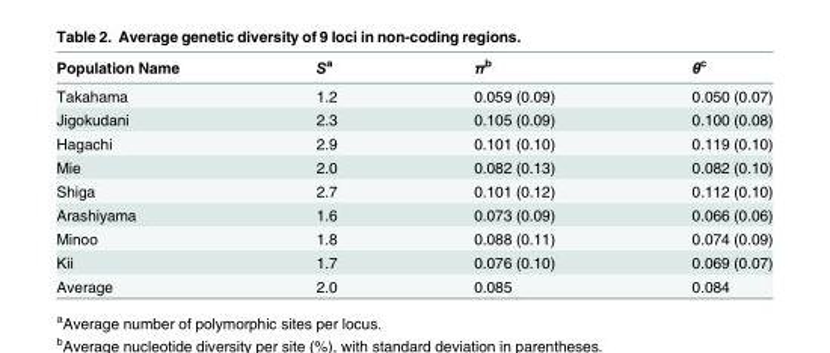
<table><thead><tr><td>Population Name</td><td>S<sup>a</sup></td><td>π<sup>b</sup></td><td>θ<sup>c</sup></td></tr></thead><tbody><tr><td>Takahama</td><td>1.2</td><td>0.059 (0.09)</td><td>0.050 (0.07)</td></tr><tr><td>Jigokudani</td><td>2.3</td><td>0.105 (0.09)</td><td>0.100 (0.08)</td></tr><tr><td>Hagachi</td><td>2.9</td><td>0.101 (0.10)</td><td>0.119 (0.10)</td></tr><tr><td>Mie</td><td>2.0</td><td>0.082 (0.13)</td><td>0.082 (0.10)</td></tr><tr><td>Shiga</td><td>2.7</td><td>0.101 (0.12)</td><td>0.112 (0.10)</td></tr><tr><td>Arashiyama</td><td>1.6</td><td>0.073 (0.09)</td><td>0.066 (0.06)</td></tr><tr><td>Minoo</td><td>1.8</td><td>0.088 (0.11)</td><td>0.074 (0.09)</td></tr><tr><td>Kii</td><td>1.7</td><td>0.076 (0.10)</td><td>0.069 (0.07)</td></tr><tr><td>Average</td><td>2.0</td><td>0.085</td><td>0.084</td></tr></tbody></table>